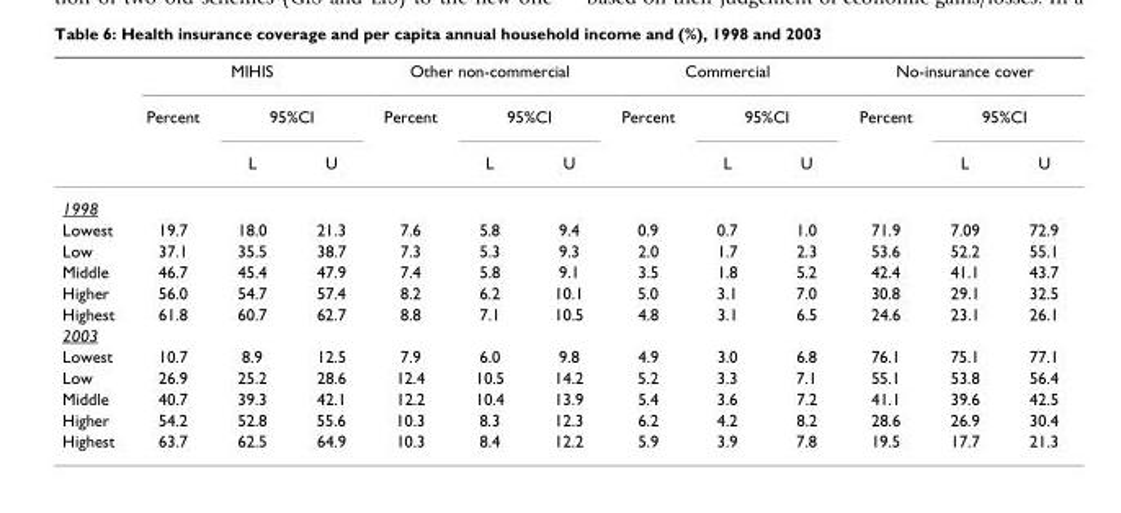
<table><thead><tr><td rowspan="3"></td><td colspan="3">MIHIS</td><td colspan="3">Other non-commercial</td><td colspan="3">Commercial</td><td colspan="3">No-insurance cover</td></tr><tr><td rowspan="2">Percent</td><td colspan="2">95%CI</td><td rowspan="2">Percent</td><td colspan="2">95%CI</td><td rowspan="2">Percent</td><td colspan="2">95%CI</td><td rowspan="2">Percent</td><td colspan="2">95%CI</td></tr><tr><td>L</td><td>U</td><td>L</td><td>U</td><td>L</td><td>U</td><td>L</td><td>U</td></tr></thead><tbody><tr><td colspan="13">1998</td></tr><tr><td>Lowest</td><td>19.7</td><td>18.0</td><td>21.3</td><td>7.6</td><td>5.8</td><td>9.4</td><td>0.9</td><td>0.7</td><td>1.0</td><td>71.9</td><td>7.09</td><td>72.9</td></tr><tr><td>Low</td><td>37.1</td><td>35.5</td><td>38.7</td><td>7.3</td><td>5.3</td><td>9.3</td><td>2.0</td><td>1.7</td><td>2.3</td><td>53.6</td><td>52.2</td><td>55.1</td></tr><tr><td>Middle</td><td>46.7</td><td>45.4</td><td>47.9</td><td>7.4</td><td>5.8</td><td>9.1</td><td>3.5</td><td>1.8</td><td>5.2</td><td>42.4</td><td>41.1</td><td>43.7</td></tr><tr><td>Higher</td><td>56.0</td><td>54.7</td><td>57.4</td><td>8.2</td><td>6.2</td><td>10.1</td><td>5.0</td><td>3.1</td><td>7.0</td><td>30.8</td><td>29.1</td><td>32.5</td></tr><tr><td>Highest</td><td>61.8</td><td>60.7</td><td>62.7</td><td>8.8</td><td>7.1</td><td>10.5</td><td>4.8</td><td>3.1</td><td>6.5</td><td>24.6</td><td>23.1</td><td>26.1</td></tr><tr><td colspan="13">2003</td></tr><tr><td>Lowest</td><td>10.7</td><td>8.9</td><td>12.5</td><td>7.9</td><td>6.0</td><td>9.8</td><td>4.9</td><td>3.0</td><td>6.8</td><td>76.1</td><td>75.1</td><td>77.1</td></tr><tr><td>Low</td><td>26.9</td><td>25.2</td><td>28.6</td><td>12.4</td><td>10.5</td><td>14.2</td><td>5.2</td><td>3.3</td><td>7.1</td><td>55.1</td><td>53.8</td><td>56.4</td></tr><tr><td>Middle</td><td>40.7</td><td>39.3</td><td>42.1</td><td>12.2</td><td>10.4</td><td>13.9</td><td>5.4</td><td>3.6</td><td>7.2</td><td>41.1</td><td>39.6</td><td>42.5</td></tr><tr><td>Higher</td><td>54.2</td><td>52.8</td><td>55.6</td><td>10.3</td><td>8.3</td><td>12.3</td><td>6.2</td><td>4.2</td><td>8.2</td><td>28.6</td><td>26.9</td><td>30.4</td></tr><tr><td>Highest</td><td>63.7</td><td>62.5</td><td>64.9</td><td>10.3</td><td>8.4</td><td>12.2</td><td>5.9</td><td>3.9</td><td>7.8</td><td>19.5</td><td>17.7</td><td>21.3</td></tr></tbody></table>